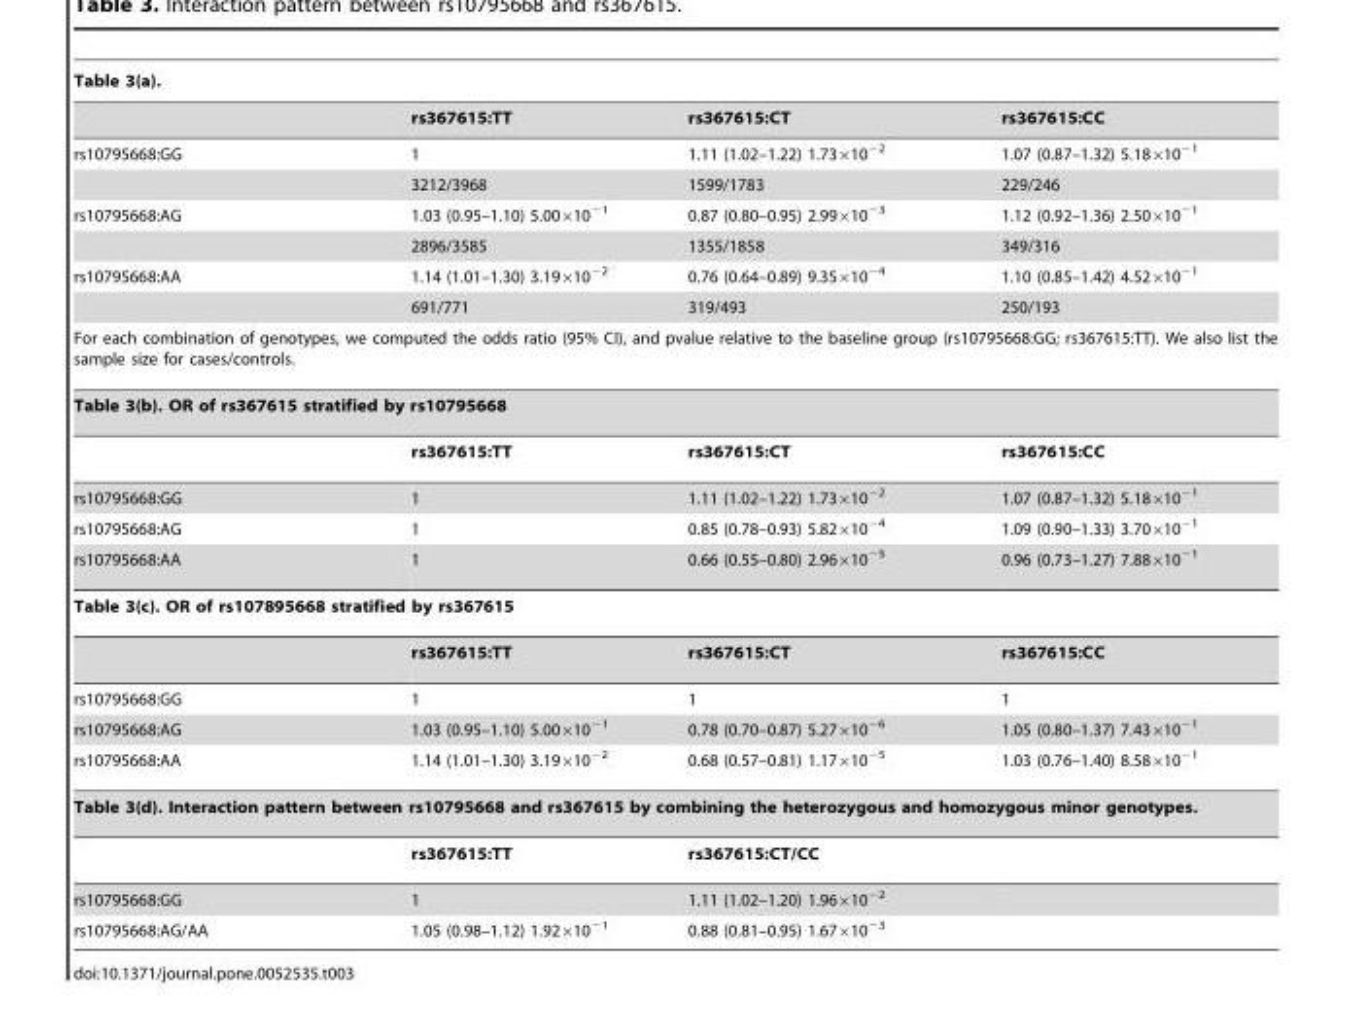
<table><thead><tr><td colspan="4">Table 3(a).</td></tr><tr><td></td><td>rs367615:TT</td><td>rs367615:CT</td><td>rs367615:CC</td></tr></thead><tbody><tr><td rowspan="2">rs10795668:GG</td><td>1</td><td>1.11 (1.02–1.22) 1.73×10<sup>−2</sup></td><td>1.07 (0.87–1.32) 5.18×10<sup>−1</sup></td></tr><tr><td>3212/3968</td><td>1599/1783</td><td>229/246</td></tr><tr><td rowspan="2">rs10795668:AG</td><td>1.03 (0.95–1.10) 5.00×10<sup>−1</sup></td><td>0.87 (0.80–0.95) 2.99×10<sup>−3</sup></td><td>1.12 (0.92–1.36) 2.50×10<sup>−1</sup></td></tr><tr><td>2896/3585</td><td>1355/1858</td><td>349/316</td></tr><tr><td rowspan="2">rs10795668:AA</td><td>1.14 (1.01–1.30) 3.19×10<sup>−2</sup></td><td>0.76 (0.64–0.89) 9.35×10<sup>−4</sup></td><td>1.10 (0.85–1.42) 4.52×10<sup>−1</sup></td></tr><tr><td>691/771</td><td>319/493</td><td>250/193</td></tr><tr><td colspan="4">For each combination of genotypes, we computed the odds ratio (95% CI), and pvalue relative to the baseline group (rs10795668:GG; rs367615:TT). We also list the sample size for cases/controls.</td></tr><tr><td colspan="4">Table 3(b). OR of rs367615 stratified by rs10795668</td></tr><tr><td></td><td>rs367615:TT</td><td>rs367615:CT</td><td>rs367615:CC</td></tr><tr><td>rs10795668:GG</td><td>1</td><td>1.11 (1.02–1.22) 1.73×10<sup>−2</sup></td><td>1.07 (0.87–1.32) 5.18×10<sup>−1</sup></td></tr><tr><td>rs10795668:AG</td><td>1</td><td>0.85 (0.78–0.93) 5.82×10<sup>−4</sup></td><td>1.09 (0.90–1.33) 3.70×10<sup>−1</sup></td></tr><tr><td>rs10795668:AA</td><td>1</td><td>0.66 (0.55–0.80) 2.96×10<sup>−5</sup></td><td>0.96 (0.73–1.27) 7.88×10<sup>−1</sup></td></tr><tr><td colspan="4">Table 3(c). OR of rs107895668 stratified by rs367615</td></tr><tr><td></td><td>rs367615:TT</td><td>rs367615:CT</td><td>rs367615:CC</td></tr><tr><td>rs10795668:GG</td><td>1</td><td>1</td><td>1</td></tr><tr><td>rs10795668:AG</td><td>1.03 (0.95–1.10) 5.00×10<sup>−1</sup></td><td>0.78 (0.70–0.87) 5.27×10<sup>−6</sup></td><td>1.05 (0.80–1.37) 7.43×10<sup>−1</sup></td></tr><tr><td>rs10795668:AA</td><td>1.14 (1.01–1.30) 3.19×10<sup>−2</sup></td><td>0.68 (0.57–0.81) 1.17×10<sup>−5</sup></td><td>1.03 (0.76–1.40) 8.58×10<sup>−1</sup></td></tr><tr><td colspan="4">Table 3(d). Interaction pattern between rs10795668 and rs367615 by combining the heterozygous and homozygous minor genotypes.</td></tr><tr><td></td><td>rs367615:TT</td><td>rs367615:CT/CC</td><td></td></tr><tr><td>rs10795668:GG</td><td>1</td><td>1.11 (1.02–1.20) 1.96×10<sup>−2</sup></td><td></td></tr><tr><td>rs10795668:AG/AA</td><td>1.05 (0.98–1.12) 1.92×10<sup>−1</sup></td><td>0.88 (0.81–0.95) 1.67×10<sup>−3</sup></td><td></td></tr></tbody></table>